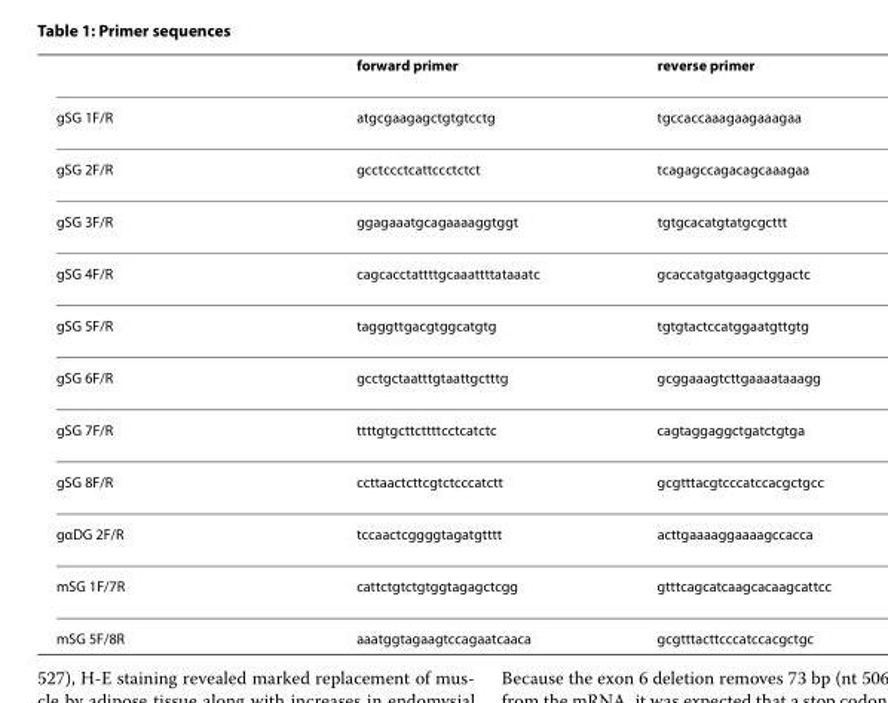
<table><thead><tr><td></td><td>forward primer</td><td>reverse primer</td></tr></thead><tbody><tr><td>gSG 1F/R</td><td>atgcgaagagctgtgtcctg</td><td>tgccaccaaagaagaaagaa</td></tr><tr><td>gSG 2F/R</td><td>gcctccctcattccctctct</td><td>tcagagccagacagcaaagaa</td></tr><tr><td>gSG 3F/R</td><td>ggagaaatgcagaaaaggtggt</td><td>tgtgcacatgtatgcgcttt</td></tr><tr><td>gSG 4F/R</td><td>cagcacctattttgcaaattttataaatc</td><td>gcaccatgatgaagctggactc</td></tr><tr><td>gSG 5F/R</td><td>tagggttgacgtggcatgtg</td><td>tgtgtactccatggaatgttgtg</td></tr><tr><td>gSG 6F/R</td><td>gcctgctaatttgtaattgctttg</td><td>gcggaaagtcttgaaaataaagg</td></tr><tr><td>gSG 7F/R</td><td>ttttgtgcttcttttcctcatctc</td><td>cagtaggaggctgatctgtga</td></tr><tr><td>gSG 8F/R</td><td>ccttaactcttcgtctcccatctt</td><td>gcgtttacgtcccatccacgctgcc</td></tr><tr><td>gαDG 2F/R</td><td>tccaactcggggtagatgtttt</td><td>acttgaaaaggaaaagccacca</td></tr><tr><td>mSG 1F/7R</td><td>cattctgtctgtggtagagctcgg</td><td>gtttcagcatcaagcacaagcattcc</td></tr><tr><td>mSG 5F/8R</td><td>aaatggtagaagtccagaatcaaca</td><td>gcgtttacttcccatccacgctgc</td></tr></tbody></table>